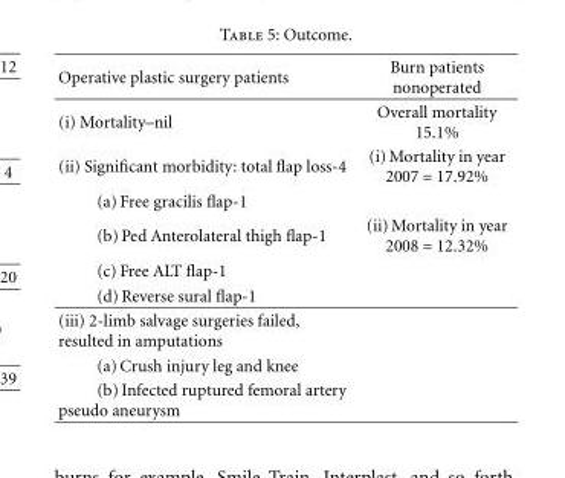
<table><thead><tr><td>Operative plastic surgery patients</td><td>Burn patients nonoperated</td></tr></thead><tbody><tr><td>(i) Mortality–nil</td><td>Overall mortality 15.1%</td></tr><tr><td>(ii) Significant morbidity: total flap loss-4</td><td>(i) Mortality in year 2007 = 17.92%</td></tr><tr><td colspan="2">(a) Free gracilis flap-1</td></tr><tr><td>(b) Ped Anterolateral thigh flap-1</td><td>(ii) Mortality in year 2008 = 12.32%</td></tr><tr><td colspan="2">(c) Free ALT flap-1</td></tr><tr><td colspan="2">(d) Reverse sural flap-1</td></tr><tr><td colspan="2">(iii) 2-limb salvage surgeries failed, resulted in amputations</td></tr><tr><td colspan="2">(a) Crush injury leg and knee</td></tr><tr><td>(b) Infected ruptured femoral artery pseudo aneurysm</td><td></td></tr></tbody></table>